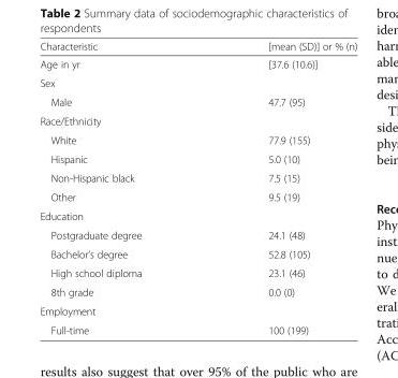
<table><thead><tr><td>Characteristic</td><td>[mean (SD)] or % (n)</td></tr></thead><tbody><tr><td>Age in yr</td><td>[37.6 (10.6)]</td></tr><tr><td colspan="2">Sex</td></tr><tr><td>Male</td><td>47.7 (95)</td></tr><tr><td colspan="2">Race/Ethnicity</td></tr><tr><td>White</td><td>77.9 (155)</td></tr><tr><td>Hispanic</td><td>5.0 (10)</td></tr><tr><td>Non-Hispanic black</td><td>7.5 (15)</td></tr><tr><td>Other</td><td>9.5 (19)</td></tr><tr><td colspan="2">Education</td></tr><tr><td>Postgraduate degree</td><td>24.1 (48)</td></tr><tr><td>Bachelor’s degree</td><td>52.8 (105)</td></tr><tr><td>High school diploma</td><td>23.1 (46)</td></tr><tr><td>8th grade</td><td>0.0 (0)</td></tr><tr><td colspan="2">Employment</td></tr><tr><td>Full-time</td><td>100 (199)</td></tr></tbody></table>